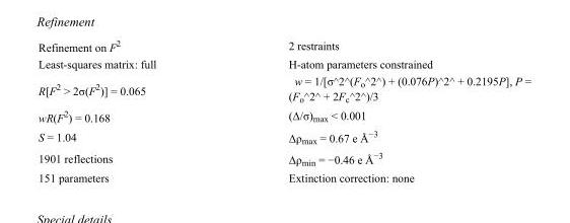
<table><tbody><tr><td>Refinement on F<sup>2</sup></td><td>2 restraints</td></tr><tr><td>Least-squares matrix: full</td><td>H-atom parameters constrained</td></tr><tr><td>R[F<sup>2</sup> &gt; 2σ(F<sup>2</sup>)] = 0.065</td><td>w = 1/[σ^2^(F<sub>o</sub>^2^) + (0.076P)^2^ + 0.2195P], P = (F<sub>o</sub>^2^ + 2F<sub>c</sub>^2^)/3</td></tr><tr><td>wR(F<sup>2</sup>) = 0.168</td><td>(Δ/σ)<sub>max</sub> &lt; 0.001</td></tr><tr><td>S = 1.04</td><td>Δρ<sub>max</sub> = 0.67 e Å<sup>−3</sup></td></tr><tr><td>1901 reflections</td><td>Δρ<sub>min</sub> = −0.46 e Å<sup>−3</sup></td></tr><tr><td>151 parameters</td><td>Extinction correction: none</td></tr></tbody></table>